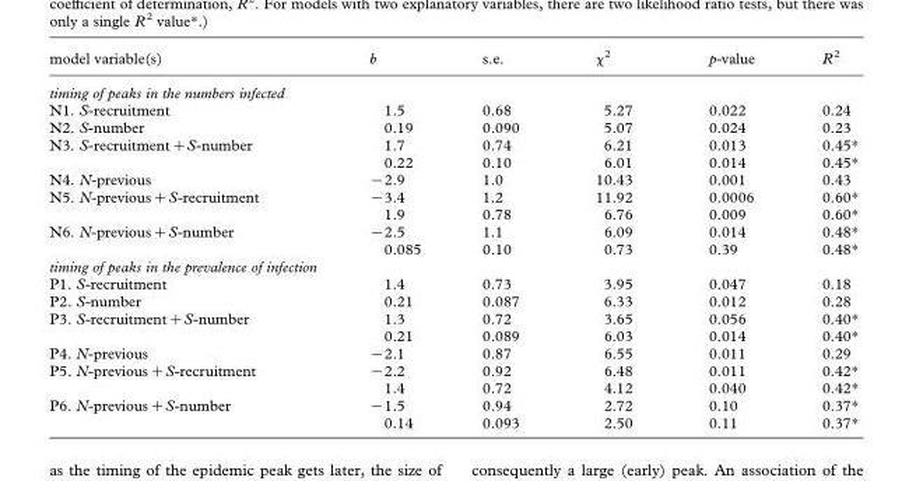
<table><thead><tr><td>model variable(s)</td><td>b</td><td>s.e.</td><td>Χ<sup>2</sup></td><td>p-value</td><td>R<sup>2</sup></td></tr></thead><tbody><tr><td colspan="6">timing of peaks in the numbers infected</td></tr><tr><td>N1. S-recruitment</td><td>1.5</td><td>0.68</td><td>5.27</td><td>0.022</td><td>0.24</td></tr><tr><td>N2. S-number</td><td>0.19</td><td>0.090</td><td>5.07</td><td>0.024</td><td>0.23</td></tr><tr><td rowspan="2">N3. S-recruitment+S-number</td><td>1.7</td><td>0.74</td><td>6.21</td><td>0.013</td><td>0.45*</td></tr><tr><td>0.22</td><td>0.10</td><td>6.01</td><td>0.014</td><td>0.45*</td></tr><tr><td>N4. N-previous</td><td>−2.9</td><td>1.0</td><td>10.43</td><td>0.001</td><td>0.43</td></tr><tr><td rowspan="2">N5. N-previous+S-recruitment</td><td>−3.4</td><td>1.2</td><td>11.92</td><td>0.0006</td><td>0.60*</td></tr><tr><td>1.9</td><td>0.78</td><td>6.76</td><td>0.009</td><td>0.60*</td></tr><tr><td rowspan="2">N6. N-previous+S-number</td><td>−2.5</td><td>1.1</td><td>6.09</td><td>0.014</td><td>0.48*</td></tr><tr><td>0.085</td><td>0.10</td><td>0.73</td><td>0.39</td><td>0.48*</td></tr><tr><td colspan="6">timing of peaks in the prevalence of infection</td></tr><tr><td>P1. S-recruitment</td><td>1.4</td><td>0.73</td><td>3.95</td><td>0.047</td><td>0.18</td></tr><tr><td>P2. S-number</td><td>0.21</td><td>0.087</td><td>6.33</td><td>0.012</td><td>0.28</td></tr><tr><td rowspan="2">P3. S-recruitment+S-number</td><td>1.3</td><td>0.72</td><td>3.65</td><td>0.056</td><td>0.40*</td></tr><tr><td>0.21</td><td>0.089</td><td>6.03</td><td>0.014</td><td>0.40*</td></tr><tr><td>P4. N-previous</td><td>−2.1</td><td>0.87</td><td>6.55</td><td>0.011</td><td>0.29</td></tr><tr><td rowspan="2">P5. N-previous+S-recruitment</td><td>−2.2</td><td>0.92</td><td>6.48</td><td>0.011</td><td>0.42*</td></tr><tr><td>1.4</td><td>0.72</td><td>4.12</td><td>0.040</td><td>0.42*</td></tr><tr><td rowspan="2">P6. N-previous+S-number</td><td>−1.5</td><td>0.94</td><td>2.72</td><td>0.10</td><td>0.37*</td></tr><tr><td>0.14</td><td>0.093</td><td>2.50</td><td>0.11</td><td>0.37*</td></tr></tbody></table>